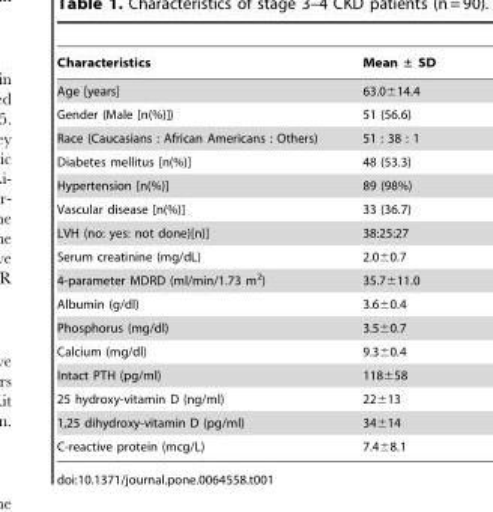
<table><thead><tr><td>Characteristics</td><td>Mean ± SD</td></tr></thead><tbody><tr><td>Age [years]</td><td>63.0±14.4</td></tr><tr><td>Gender (Male [n(%)])</td><td>51 (56.6)</td></tr><tr><td>Race (Caucasians : African Americans : Others)</td><td>51 : 38 : 1</td></tr><tr><td>Diabetes mellitus [n(%)]</td><td>48 (53.3)</td></tr><tr><td>Hypertension [n(%)]</td><td>89 (98%)</td></tr><tr><td>Vascular disease [n(%)]</td><td>33 (36.7)</td></tr><tr><td>LVH (no: yes: not done)[n)]</td><td>38:25:27</td></tr><tr><td>Serum creatinine (mg/dL)</td><td>2.0±0.7</td></tr><tr><td>4-parameter MDRD (ml/min/1.73 m<sup>2</sup>)</td><td>35.7±11.0</td></tr><tr><td>Albumin (g/dl)</td><td>3.6±0.4</td></tr><tr><td>Phosphorus (mg/dl)</td><td>3.5±0.7</td></tr><tr><td>Calcium (mg/dl)</td><td>9.3±0.4</td></tr><tr><td>Intact PTH (pg/ml)</td><td>118±58</td></tr><tr><td>25 hydroxy-vitamin D (ng/ml)</td><td>22±13</td></tr><tr><td>1,25 dihydroxy-vitamin D (pg/ml)</td><td>34±14</td></tr><tr><td>C-reactive protein (mcg/L)</td><td>7.4±8.1</td></tr></tbody></table>